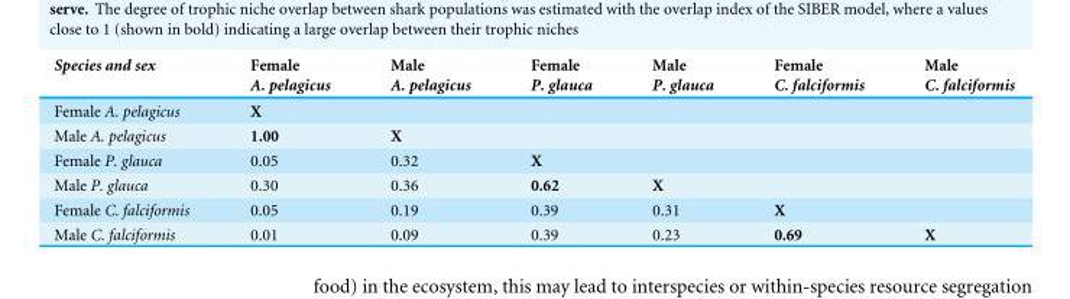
<table><thead><tr><td>Species and sex</td><td>Female A. pelagicus</td><td>Male A. pelagicus</td><td>Female P. glauca</td><td>Male P. glauca</td><td>Female C. falciformis</td><td>Male C. falciformis</td></tr></thead><tbody><tr><td>Female A. pelagicus</td><td>X</td><td></td><td></td><td></td><td></td><td></td></tr><tr><td>Male A. pelagicus</td><td>1.00</td><td>X</td><td></td><td></td><td></td><td></td></tr><tr><td>Female P. glauca</td><td>0.05</td><td>0.32</td><td>X</td><td></td><td></td><td></td></tr><tr><td>Male P. glauca</td><td>0.30</td><td>0.36</td><td>0.62</td><td>X</td><td></td><td></td></tr><tr><td>Female C. falciformis</td><td>0.05</td><td>0.19</td><td>0.39</td><td>0.31</td><td>X</td><td></td></tr><tr><td>Male C. falciformis</td><td>0.01</td><td>0.09</td><td>0.39</td><td>0.23</td><td>0.69</td><td>X</td></tr></tbody></table>